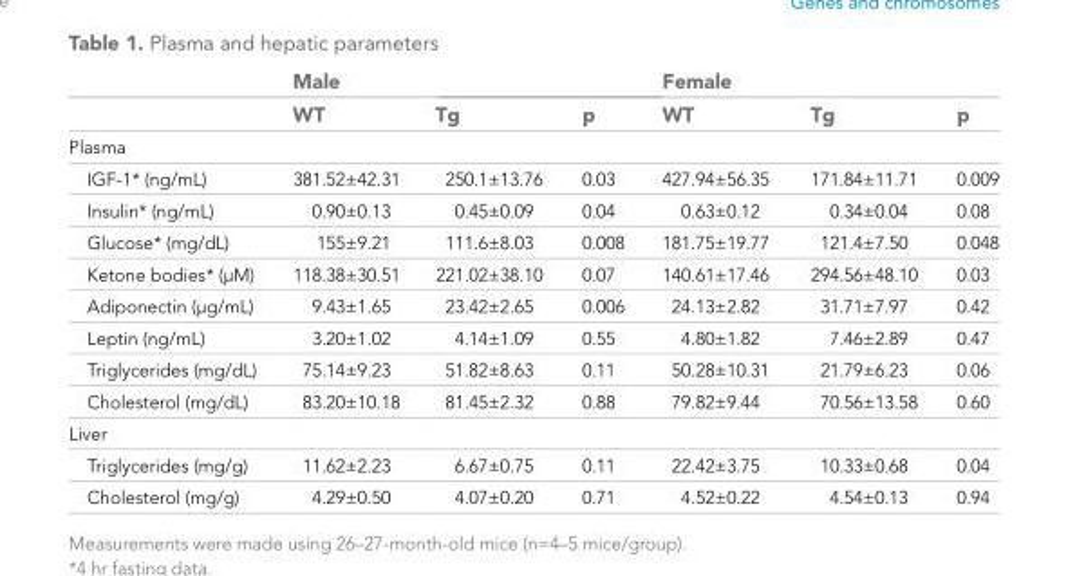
<table><thead><tr><td rowspan="2"></td><td colspan="3">Male</td><td colspan="3">Female</td></tr><tr><td>WT</td><td>Tg</td><td>p</td><td>WT</td><td>Tg</td><td>p</td></tr></thead><tbody><tr><td colspan="7">Plasma</td></tr><tr><td>IGF-1* (ng/mL)</td><td>381.52±42.31</td><td>250.1±13.76</td><td>0.03</td><td>427.94±56.35</td><td>171.84±11.71</td><td>0.009</td></tr><tr><td>Insulin* (ng/mL)</td><td>0.90±0.13</td><td>0.45±0.09</td><td>0.04</td><td>0.63±0.12</td><td>0.34±0.04</td><td>0.08</td></tr><tr><td>Glucose* (mg/dL)</td><td>155±9.21</td><td>111.6±8.03</td><td>0.008</td><td>181.75±19.77</td><td>121.4±7.50</td><td>0.048</td></tr><tr><td>Ketone bodies* (µM)</td><td>118.38±30.51</td><td>221.02±38.10</td><td>0.07</td><td>140.61±17.46</td><td>294.56±48.10</td><td>0.03</td></tr><tr><td>Adiponectin (µg/mL)</td><td>9.43±1.65</td><td>23.42±2.65</td><td>0.006</td><td>24.13±2.82</td><td>31.71±7.97</td><td>0.42</td></tr><tr><td>Leptin (ng/mL)</td><td>3.20±1.02</td><td>4.14±1.09</td><td>0.55</td><td>4.80±1.82</td><td>7.46±2.89</td><td>0.47</td></tr><tr><td>Triglycerides (mg/dL)</td><td>75.14±9.23</td><td>51.82±8.63</td><td>0.11</td><td>50.28±10.31</td><td>21.79±6.23</td><td>0.06</td></tr><tr><td>Cholesterol (mg/dL)</td><td>83.20±10.18</td><td>81.45±2.32</td><td>0.88</td><td>79.82±9.44</td><td>70.56±13.58</td><td>0.60</td></tr><tr><td colspan="7">Liver</td></tr><tr><td>Triglycerides (mg/g)</td><td>11.62±2.23</td><td>6.67±0.75</td><td>0.11</td><td>22.42±3.75</td><td>10.33±0.68</td><td>0.04</td></tr><tr><td>Cholesterol (mg/g)</td><td>4.29±0.50</td><td>4.07±0.20</td><td>0.71</td><td>4.52±0.22</td><td>4.54±0.13</td><td>0.94</td></tr></tbody></table>